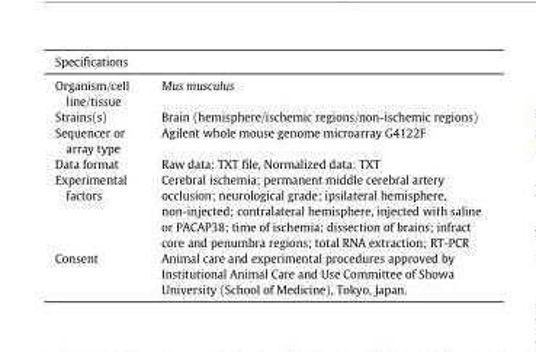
<table><thead><tr><td colspan="2">Specifications</td></tr><tr><td>Organism/cell line/tissue</td><td>Mus musculus</td></tr></thead><tbody><tr><td>Strains(s)</td><td>Brain (hemisphere/ischemic regions/non-ischemic regions)</td></tr><tr><td>Sequencer or array type</td><td>Agilent whole mouse genome microarray G4122F</td></tr><tr><td>Data format</td><td>Raw data: TXT file, Normalized data: TXT</td></tr><tr><td>Experimental factors</td><td>Cerebral ischemia; permanent middle cerebral artery occlusion; neurological grade; ipsilateral hemisphere, non-injected; contralateral hemisphere, injected with saline or PACAP38; time of ischemia; dissection of brains; infract core and penumbra regions; total RNA extraction; RT-PCR</td></tr><tr><td>Consent</td><td>Animal care and experimental procedures approved by Institutional Animal Care and Use Committee of Showa University (School of Medicine), Tokyo, Japan.</td></tr></tbody></table>